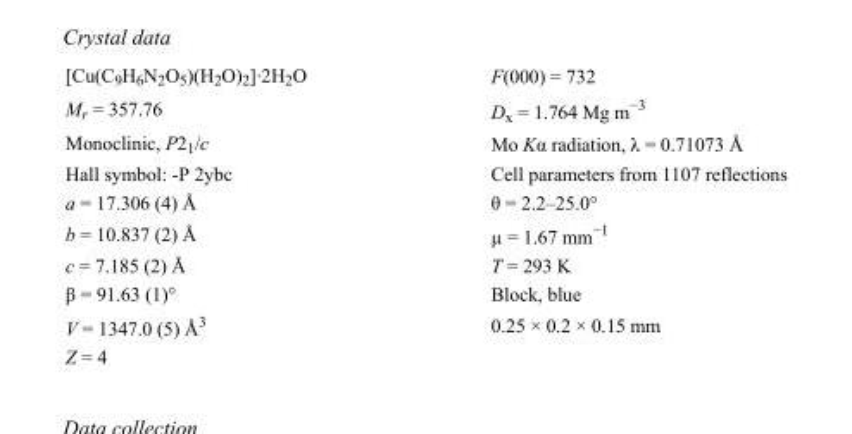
<table><tbody><tr><td>[Cu(C<sub>9</sub>H<sub>6</sub>N<sub>2</sub>O<sub>5</sub>)(H<sub>2</sub>O)<sub>2</sub>]·2H<sub>2</sub>O</td><td>F(000) = 732</td></tr><tr><td>M<sub>r</sub> = 357.76</td><td>D<sub>x</sub> = 1.764 Mg m<sup>−3</sup></td></tr><tr><td>Monoclinic, P2<sub>1</sub>/c</td><td>Mo Kα radiation, λ = 0.71073 Å</td></tr><tr><td>Hall symbol: -P 2ybc</td><td>Cell parameters from 1107 reflections</td></tr><tr><td>a = 17.306 (4) Å</td><td>θ = 2.2–25.0°</td></tr><tr><td>b = 10.837 (2) Å</td><td>µ = 1.67 mm<sup>−1</sup></td></tr><tr><td>c = 7.185 (2) Å</td><td>T = 293 K</td></tr><tr><td>β = 91.63 (1)°</td><td>Block, blue</td></tr><tr><td>V = 1347.0 (5) Å<sup>3</sup></td><td>0.25 × 0.2 × 0.15 mm</td></tr><tr><td>Z = 4</td><td></td></tr></tbody></table>